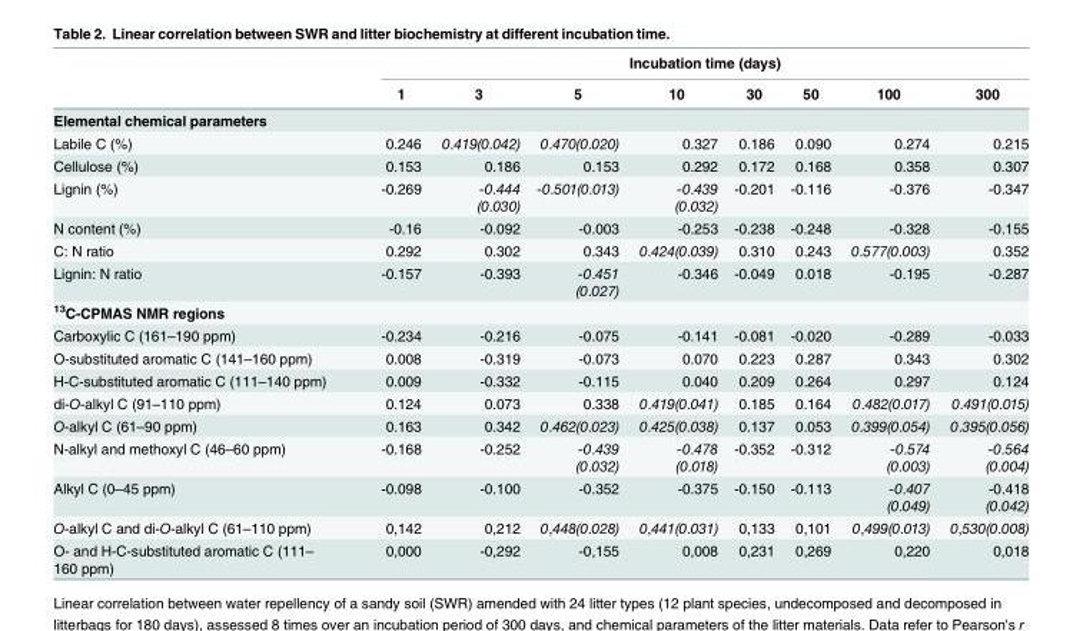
<table><thead><tr><td rowspan="2"></td><td colspan="8">Incubation time (days)</td></tr><tr><td>1</td><td>3</td><td>5</td><td>10</td><td>30</td><td>50</td><td>100</td><td>300</td></tr></thead><tbody><tr><td colspan="9">Elemental chemical parameters</td></tr><tr><td>Labile C (%)</td><td>0.246</td><td>0.419(0.042)</td><td>0.470(0.020)</td><td>0.327</td><td>0.186</td><td>0.090</td><td>0.274</td><td>0.215</td></tr><tr><td>Cellulose (%)</td><td>0.153</td><td>0.186</td><td>0.153</td><td>0.292</td><td>0.172</td><td>0.168</td><td>0.358</td><td>0.307</td></tr><tr><td>Lignin (%)</td><td>-0.269</td><td>-0.444 (0.030)</td><td>-0.501(0.013)</td><td>-0.439 (0.032)</td><td>-0.201</td><td>-0.116</td><td>-0.376</td><td>-0.347</td></tr><tr><td>N content (%)</td><td>-0.16</td><td>-0.092</td><td>-0.003</td><td>-0.253</td><td>-0.238</td><td>-0.248</td><td>-0.328</td><td>-0.155</td></tr><tr><td>C: N ratio</td><td>0.292</td><td>0.302</td><td>0.343</td><td>0.424(0.039)</td><td>0.310</td><td>0.243</td><td>0.577(0.003)</td><td>0.352</td></tr><tr><td>Lignin: N ratio</td><td>-0.157</td><td>-0.393</td><td>-0.451 (0.027)</td><td>-0.346</td><td>-0.049</td><td>0.018</td><td>-0.195</td><td>-0.287</td></tr><tr><td colspan="9"><sup>13</sup>C-CPMAS NMR regions</td></tr><tr><td>Carboxylic C (161–190 ppm)</td><td>-0.234</td><td>-0.216</td><td>-0.075</td><td>-0.141</td><td>-0.081</td><td>-0.020</td><td>-0.289</td><td>-0.033</td></tr><tr><td>O-substituted aromatic C (141–160 ppm)</td><td>0.008</td><td>-0.319</td><td>-0.073</td><td>0.070</td><td>0.223</td><td>0.287</td><td>0.343</td><td>0.302</td></tr><tr><td>H-C-substituted aromatic C (111–140 ppm)</td><td>0.009</td><td>-0.332</td><td>-0.115</td><td>0.040</td><td>0.209</td><td>0.264</td><td>0.297</td><td>0.124</td></tr><tr><td>di-O-alkyl C (91–110 ppm)</td><td>0.124</td><td>0.073</td><td>0.338</td><td>0.419(0.041)</td><td>0.185</td><td>0.164</td><td>0.482(0.017)</td><td>0.491(0.015)</td></tr><tr><td>O-alkyl C (61–90 ppm)</td><td>0.163</td><td>0.342</td><td>0.462(0.023)</td><td>0.425(0.038)</td><td>0.137</td><td>0.053</td><td>0.399(0.054)</td><td>0.395(0.056)</td></tr><tr><td>N-alkyl and methoxyl C (46–60 ppm)</td><td>-0.168</td><td>-0.252</td><td>-0.439 (0.032)</td><td>-0.478 (0.018)</td><td>-0.352</td><td>-0.312</td><td>-0.574 (0.003)</td><td>-0.564 (0.004)</td></tr><tr><td>Alkyl C (0–45 ppm)</td><td>-0.098</td><td>-0.100</td><td>-0.352</td><td>-0.375</td><td>-0.150</td><td>-0.113</td><td>-0.407 (0.049)</td><td>-0.418 (0.042)</td></tr><tr><td>O-alkyl C and di-O-alkyl C (61–110 ppm)</td><td>0,142</td><td>0,212</td><td>0,448(0.028)</td><td>0,441(0.031)</td><td>0,133</td><td>0,101</td><td>0,499(0.013)</td><td>0,530(0.008)</td></tr><tr><td>O- and H-C-substituted aromatic C (111– 160 ppm)</td><td>0,000</td><td>-0,292</td><td>-0,155</td><td>0,008</td><td>0,231</td><td>0,269</td><td>0,220</td><td>0,018</td></tr></tbody></table>